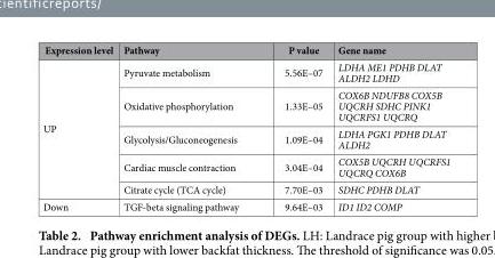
<table><thead><tr><td>Expression level</td><td>Pathway</td><td>P value</td><td>Gene name</td></tr></thead><tbody><tr><td rowspan="5">UP</td><td>Pyruvate metabolism</td><td>5.56E–07</td><td>LDHA ME1 PDHB DLAT ALDH2 LDHD</td></tr><tr><td>Oxidative phosphorylation</td><td>1.33E–05</td><td>COX6B NDUFB8 COX5B UQCRH SDHC PINK1 UQCRFS1 UQCRQ</td></tr><tr><td>Glycolysis/Gluconeogenesis</td><td>1.09E–04</td><td>LDHA PGK1 PDHB DLAT ALDH2</td></tr><tr><td>Cardiac muscle contraction</td><td>3.04E–04</td><td>COX5B UQCRH UQCRFS1 UQCRQ COX6B</td></tr><tr><td>Citrate cycle (TCA cycle)</td><td>7.70E–03</td><td>SDHC PDHB DLAT</td></tr><tr><td>Down</td><td>TGF-beta signaling pathway</td><td>9.64E–03</td><td>ID1 ID2 COMP</td></tr></tbody></table>